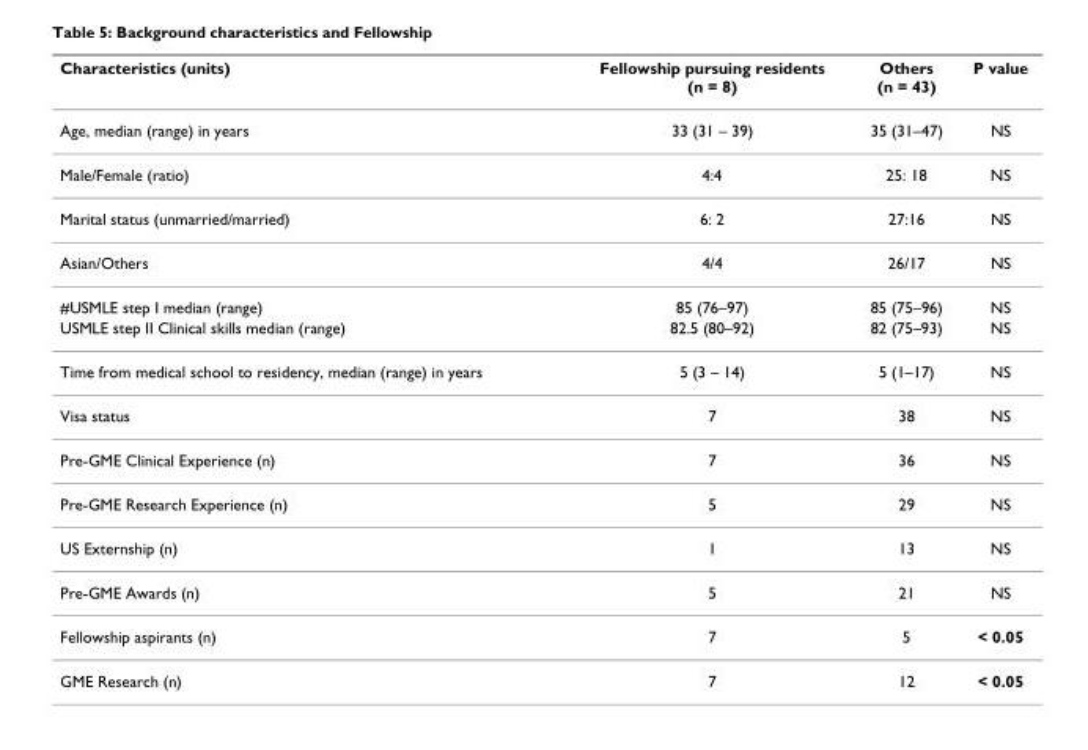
<table><thead><tr><td>Characteristics (units)</td><td>Fellowship pursuing residents (n = 8)</td><td>Others (n = 43)</td><td>P value</td></tr></thead><tbody><tr><td>Age, median (range) in years</td><td>33 (31 – 39)</td><td>35 (31–47)</td><td>NS</td></tr><tr><td>Male/Female (ratio)</td><td>4:4</td><td>25: 18</td><td>NS</td></tr><tr><td>Marital status (unmarried/married)</td><td>6: 2</td><td>27:16</td><td>NS</td></tr><tr><td>Asian/Others</td><td>4/4</td><td>26/17</td><td>NS</td></tr><tr><td>#USMLE step I median (range)</td><td>85 (76–97)</td><td>85 (75–96)</td><td>NS</td></tr><tr><td>USMLE step II Clinical skills median (range)</td><td>82.5 (80–92)</td><td>82 (75–93)</td><td>NS</td></tr><tr><td>Time from medical school to residency, median (range) in years</td><td>5 (3 – 14)</td><td>5 (1–17)</td><td>NS</td></tr><tr><td>Visa status</td><td>7</td><td>38</td><td>NS</td></tr><tr><td>Pre-GME Clinical Experience (n)</td><td>7</td><td>36</td><td>NS</td></tr><tr><td>Pre-GME Research Experience (n)</td><td>5</td><td>29</td><td>NS</td></tr><tr><td>US Externship (n)</td><td>1</td><td>13</td><td>NS</td></tr><tr><td>Pre-GME Awards (n)</td><td>5</td><td>21</td><td>NS</td></tr><tr><td>Fellowship aspirants (n)</td><td>7</td><td>5</td><td>&lt; 0.05</td></tr><tr><td>GME Research (n)</td><td>7</td><td>12</td><td>&lt; 0.05</td></tr></tbody></table>